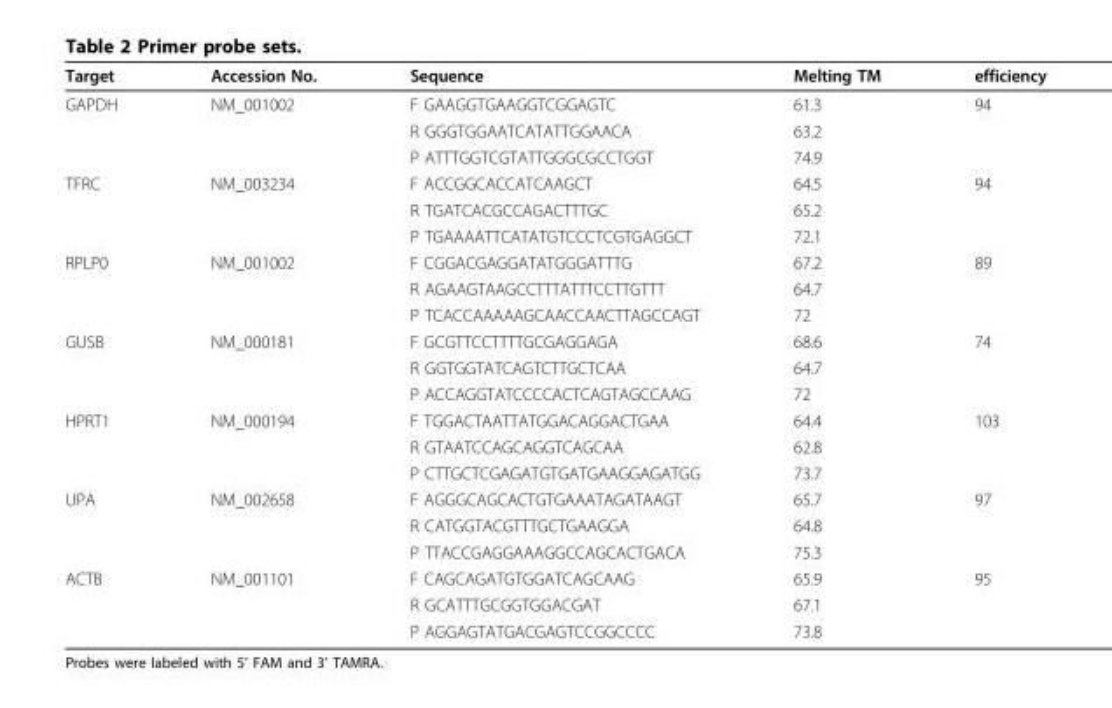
<table><thead><tr><td>Target</td><td>Accession No.</td><td>Sequence</td><td>Melting TM</td><td>efficiency</td></tr></thead><tbody><tr><td rowspan="3">GAPDH</td><td>NM_001002</td><td>F GAAGGTGAAGGTCGGAGTC</td><td>61.3</td><td>94</td></tr><tr><td></td><td>R GGGTGGAATCATATTGGAACA</td><td>63.2</td><td></td></tr><tr><td></td><td>P ATTTGGTCGTATTGGGCGCCTGGT</td><td>74.9</td><td></td></tr><tr><td rowspan="3">TFRC</td><td>NM_003234</td><td>F ACCGGCACCATCAAGCT</td><td>64.5</td><td>94</td></tr><tr><td></td><td>R TGATCACGCCAGACTTTGC</td><td>65.2</td><td></td></tr><tr><td></td><td>P TGAAAATTCATATGTCCCTCGTGAGGCT</td><td>72.1</td><td></td></tr><tr><td rowspan="3">RPLP0</td><td>NM_001002</td><td>F CGGACGAGGATATGGGATTTG</td><td>67.2</td><td>89</td></tr><tr><td></td><td>R AGAAGTAAGCCTTTATTTCCTTGTTT</td><td>64.7</td><td></td></tr><tr><td></td><td>P TCACCAAAAAGCAACCAACTTAGCCAGT</td><td>72</td><td></td></tr><tr><td rowspan="3">GUSB</td><td>NM_000181</td><td>F GCGTTCCTTTTGCGAGGAGA</td><td>68.6</td><td>74</td></tr><tr><td></td><td>R GGTGGTATCAGTCTTGCTCAA</td><td>64.7</td><td></td></tr><tr><td></td><td>P ACCAGGTATCCCCACTCAGTAGCCAAG</td><td>72</td><td></td></tr><tr><td rowspan="3">HPRT1</td><td>NM_000194</td><td>F TGGACTAATTATGGACAGGACTGAA</td><td>64.4</td><td>103</td></tr><tr><td></td><td>R GTAATCCAGCAGGTCAGCAA</td><td>62.8</td><td></td></tr><tr><td></td><td>P CTTGCTCGAGATGTGATGAAGGAGATGG</td><td>73.7</td><td></td></tr><tr><td rowspan="3">UPA</td><td>NM_002658</td><td>F AGGGCAGCACTGTGAAATAGATAAGT</td><td>65.7</td><td>97</td></tr><tr><td></td><td>R CATGGTACGTTTGCTGAAGGA</td><td>64.8</td><td></td></tr><tr><td></td><td>P TTACCGAGGAAAGGCCAGCACTGACA</td><td>75.3</td><td></td></tr><tr><td rowspan="3">ACTB</td><td>NM_001101</td><td>F CAGCAGATGTGGATCAGCAAG</td><td>65.9</td><td>95</td></tr><tr><td></td><td>R GCATTTGCGGTGGACGAT</td><td>67.1</td><td></td></tr><tr><td></td><td>P AGGAGTATGACGAGTCCGGCCCC</td><td>73.8</td><td></td></tr></tbody></table>